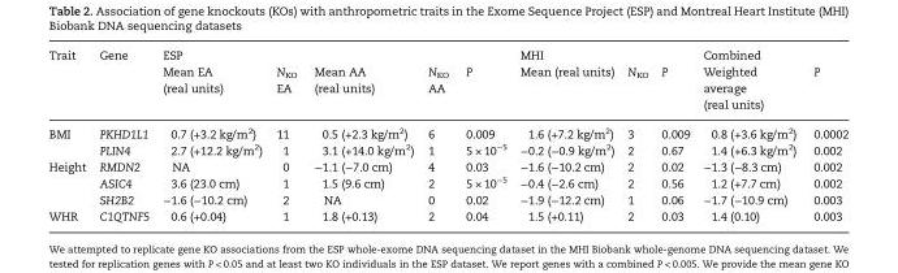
<table><thead><tr><td rowspan="2">Trait</td><td rowspan="2">Gene</td><td colspan="5">ESP</td><td colspan="3">MHI</td><td colspan="2">Combined</td></tr><tr><td>Mean EA (real units)</td><td>N<sub>KO</sub> EA</td><td>Mean AA (real units)</td><td>N<sub>KO</sub> AA</td><td>P</td><td>Mean (real units)</td><td>N<sub>KO</sub></td><td>P</td><td>Weighted average (real units)</td><td>P</td></tr></thead><tbody><tr><td rowspan="2">BMI</td><td>PKHD1L1</td><td>0.7 (+3.2 kg/m<sup>2</sup>)</td><td>11</td><td>0.5 (+2.3 kg/m<sup>2</sup>)</td><td>6</td><td>0.009</td><td>1.6 (+7.2 kg/m<sup>2</sup>)</td><td>3</td><td>0.009</td><td>0.8 (+3.6 kg/m<sup>2</sup>)</td><td>0.0002</td></tr><tr><td>PLIN4</td><td>2.7 (+12.2 kg/m<sup>2</sup>)</td><td>1</td><td>3.1 (+14.0 kg/m<sup>2</sup>)</td><td>1</td><td>5 × 10<sup>−5</sup></td><td>−0.2 (−0.9 kg/m<sup>2</sup>)</td><td>2</td><td>0.67</td><td>1.4 (+6.3 kg/m<sup>2</sup>)</td><td>0.002</td></tr><tr><td rowspan="3">Height</td><td>RMDN2</td><td>NA</td><td>0</td><td>−1.1 (−7.0 cm)</td><td>4</td><td>0.03</td><td>−1.6 (−10.2 cm)</td><td>2</td><td>0.02</td><td>−1.3 (−8.3 cm)</td><td>0.002</td></tr><tr><td>ASIC4</td><td>3.6 (23.0 cm)</td><td>1</td><td>1.5 (9.6 cm)</td><td>2</td><td>5 × 10<sup>−5</sup></td><td>−0.4 (−2.6 cm)</td><td>2</td><td>0.56</td><td>1.2 (+7.7 cm)</td><td>0.002</td></tr><tr><td>SH2B2</td><td>−1.6 (−10.2 cm)</td><td>2</td><td>NA</td><td>0</td><td>0.02</td><td>−1.9 (−12.2 cm)</td><td>1</td><td>0.06</td><td>−1.7 (−10.9 cm)</td><td>0.003</td></tr><tr><td>WHR</td><td>C1QTNF5</td><td>0.6 (+0.04)</td><td>1</td><td>1.8 (+0.13)</td><td>2</td><td>0.04</td><td>1.5 (+0.11)</td><td>2</td><td>0.03</td><td>1.4 (0.10)</td><td>0.003</td></tr></tbody></table>